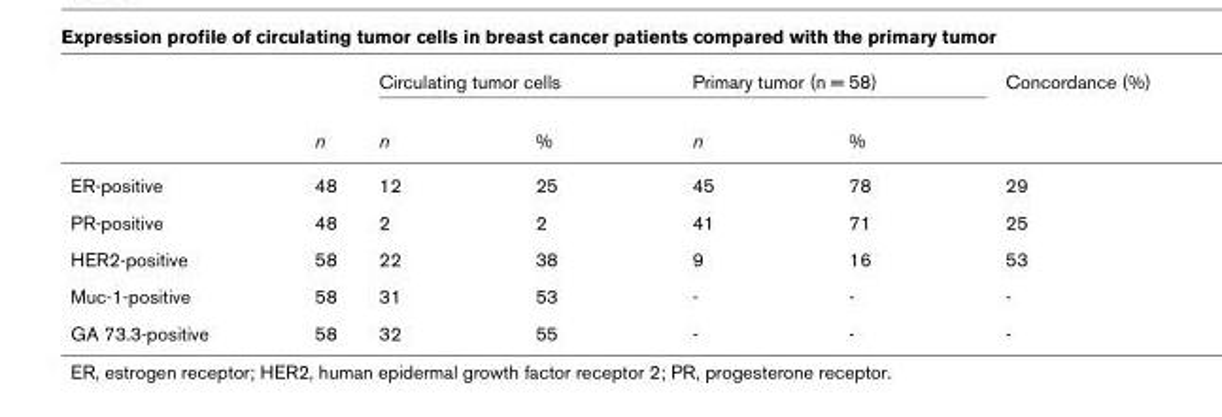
<table><thead><tr><td rowspan="2"></td><td rowspan="2">n</td><td colspan="2">Circulating tumor cells</td><td colspan="2">Primary tumor (n = 58)</td><td rowspan="2">Concordance (%)</td></tr><tr><td>n</td><td>%</td><td>n</td><td>%</td></tr></thead><tbody><tr><td>ER-positive</td><td>48</td><td>12</td><td>25</td><td>45</td><td>78</td><td>29</td></tr><tr><td>PR-positive</td><td>48</td><td>2</td><td>2</td><td>41</td><td>71</td><td>25</td></tr><tr><td>HER2-positive</td><td>58</td><td>22</td><td>38</td><td>9</td><td>16</td><td>53</td></tr><tr><td>Muc-1-positive</td><td>58</td><td>31</td><td>53</td><td>-</td><td>-</td><td>-</td></tr><tr><td>GA 73.3-positive</td><td>58</td><td>32</td><td>55</td><td>-</td><td>-</td><td>-</td></tr></tbody></table>